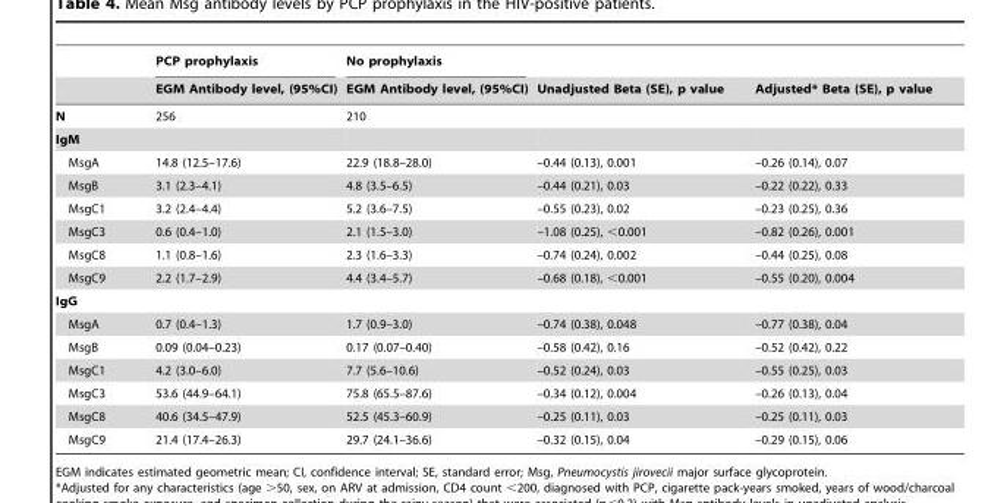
<table><thead><tr><td rowspan="2"></td><td rowspan="2">PCP prophylaxis EGM Antibody level, (95%CI)</td><td rowspan="2">No prophylaxis EGM Antibody level, (95%CI)</td><td rowspan="2">Unadjusted Beta (SE), p value</td><td rowspan="2">Adjusted* Beta (SE), p value</td></tr><tr></tr></thead><tbody><tr><td>N</td><td>256</td><td>210</td><td></td><td></td></tr><tr><td colspan="5">IgM</td></tr><tr><td>MsgA</td><td>14.8 (12.5–17.6)</td><td>22.9 (18.8–28.0)</td><td>–0.44 (0.13), 0.001</td><td>–0.26 (0.14), 0.07</td></tr><tr><td>MsgB</td><td>3.1 (2.3–4.1)</td><td>4.8 (3.5–6.5)</td><td>–0.44 (0.21), 0.03</td><td>–0.22 (0.22), 0.33</td></tr><tr><td>MsgC1</td><td>3.2 (2.4–4.4)</td><td>5.2 (3.6–7.5)</td><td>–0.55 (0.23), 0.02</td><td>–0.23 (0.25), 0.36</td></tr><tr><td>MsgC3</td><td>0.6 (0.4–1.0)</td><td>2.1 (1.5–3.0)</td><td>–1.08 (0.25), &lt;0.001</td><td>–0.82 (0.26), 0.001</td></tr><tr><td>MsgC8</td><td>1.1 (0.8–1.6)</td><td>2.3 (1.6–3.3)</td><td>–0.74 (0.24), 0.002</td><td>–0.44 (0.25), 0.08</td></tr><tr><td>MsgC9</td><td>2.2 (1.7–2.9)</td><td>4.4 (3.4–5.7)</td><td>–0.68 (0.18), &lt;0.001</td><td>–0.55 (0.20), 0.004</td></tr><tr><td colspan="5">IgG</td></tr><tr><td>MsgA</td><td>0.7 (0.4–1.3)</td><td>1.7 (0.9–3.0)</td><td>–0.74 (0.38), 0.048</td><td>–0.77 (0.38), 0.04</td></tr><tr><td>MsgB</td><td>0.09 (0.04–0.23)</td><td>0.17 (0.07–0.40)</td><td>–0.58 (0.42), 0.16</td><td>–0.52 (0.42), 0.22</td></tr><tr><td>MsgC1</td><td>4.2 (3.0–6.0)</td><td>7.7 (5.6–10.6)</td><td>–0.52 (0.24), 0.03</td><td>–0.55 (0.25), 0.03</td></tr><tr><td>MsgC3</td><td>53.6 (44.9–64.1)</td><td>75.8 (65.5–87.6)</td><td>–0.34 (0.12), 0.004</td><td>–0.26 (0.13), 0.04</td></tr><tr><td>MsgC8</td><td>40.6 (34.5–47.9)</td><td>52.5 (45.3–60.9)</td><td>–0.25 (0.11), 0.03</td><td>–0.25 (0.11), 0.03</td></tr><tr><td>MsgC9</td><td>21.4 (17.4–26.3)</td><td>29.7 (24.1–36.6)</td><td>–0.32 (0.15), 0.04</td><td>–0.29 (0.15), 0.06</td></tr></tbody></table>